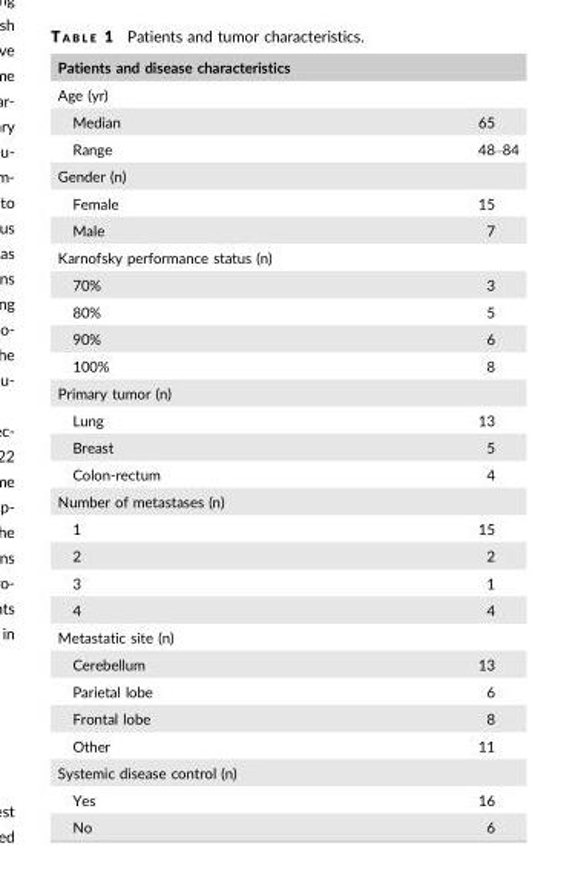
<table><thead><tr><td rowspan="2" colspan="2">Patients and disease characteristics Age (yr)</td></tr><tr></tr><tr><td>Median</td><td>65</td></tr></thead><tbody><tr><td>Range</td><td>48–84</td></tr><tr><td colspan="2">Gender (n)</td></tr><tr><td>Female</td><td>15</td></tr><tr><td>Male</td><td>7</td></tr><tr><td colspan="2">Karnofsky performance status (n)</td></tr><tr><td>70%</td><td>3</td></tr><tr><td>80%</td><td>5</td></tr><tr><td>90%</td><td>6</td></tr><tr><td>100%</td><td>8</td></tr><tr><td colspan="2">Primary tumor (n)</td></tr><tr><td>Lung</td><td>13</td></tr><tr><td>Breast</td><td>5</td></tr><tr><td>Colon-rectum</td><td>4</td></tr><tr><td colspan="2">Number of metastases (n)</td></tr><tr><td>1</td><td>15</td></tr><tr><td>2</td><td>2</td></tr><tr><td>3</td><td>1</td></tr><tr><td>4</td><td>4</td></tr><tr><td colspan="2">Metastatic site (n)</td></tr><tr><td>Cerebellum</td><td>13</td></tr><tr><td>Parietal lobe</td><td>6</td></tr><tr><td>Frontal lobe</td><td>8</td></tr><tr><td>Other</td><td>11</td></tr><tr><td colspan="2">Systemic disease control (n)</td></tr><tr><td>Yes</td><td>16</td></tr><tr><td>No</td><td>6</td></tr></tbody></table>